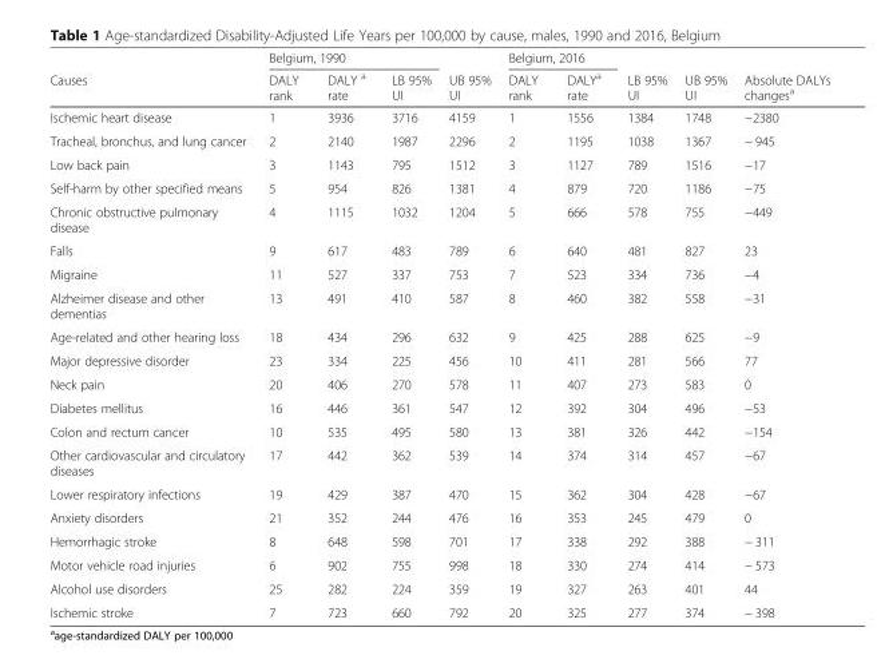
<table><thead><tr><td rowspan="2">Causes</td><td colspan="3">Belgium, 1990</td><td rowspan="2">UB 95% UI</td><td colspan="2">Belgium, 2016</td><td rowspan="2">LB 95% UI</td><td rowspan="2">UB 95% UI</td><td rowspan="2">Absolute DALYs changes<sup>a</sup></td></tr><tr><td>DALY rank</td><td>DALY <sup>a</sup> rate</td><td>LB 95% UI</td><td>DALY rank</td><td>DALY<sup>a</sup> rate</td></tr></thead><tbody><tr><td>Ischemic heart disease</td><td>1</td><td>3936</td><td>3716</td><td>4159</td><td>1</td><td>1556</td><td>1384</td><td>1748</td><td>−2380</td></tr><tr><td>Tracheal, bronchus, and lung cancer</td><td>2</td><td>2140</td><td>1987</td><td>2296</td><td>2</td><td>1195</td><td>1038</td><td>1367</td><td>− 945</td></tr><tr><td>Low back pain</td><td>3</td><td>1143</td><td>795</td><td>1512</td><td>3</td><td>1127</td><td>789</td><td>1516</td><td>−17</td></tr><tr><td>Self-harm by other specified means</td><td>5</td><td>954</td><td>826</td><td>1381</td><td>4</td><td>879</td><td>720</td><td>1186</td><td>−75</td></tr><tr><td>Chronic obstructive pulmonary disease</td><td>4</td><td>1115</td><td>1032</td><td>1204</td><td>5</td><td>666</td><td>578</td><td>755</td><td>−449</td></tr><tr><td>Falls</td><td>9</td><td>617</td><td>483</td><td>789</td><td>6</td><td>640</td><td>481</td><td>827</td><td>23</td></tr><tr><td>Migraine</td><td>11</td><td>527</td><td>337</td><td>753</td><td>7</td><td>523</td><td>334</td><td>736</td><td>−4</td></tr><tr><td>Alzheimer disease and other dementias</td><td>13</td><td>491</td><td>410</td><td>587</td><td>8</td><td>460</td><td>382</td><td>558</td><td>−31</td></tr><tr><td>Age-related and other hearing loss</td><td>18</td><td>434</td><td>296</td><td>632</td><td>9</td><td>425</td><td>288</td><td>625</td><td>−9</td></tr><tr><td>Major depressive disorder</td><td>23</td><td>334</td><td>225</td><td>456</td><td>10</td><td>411</td><td>281</td><td>566</td><td>77</td></tr><tr><td>Neck pain</td><td>20</td><td>406</td><td>270</td><td>578</td><td>11</td><td>407</td><td>273</td><td>583</td><td>0</td></tr><tr><td>Diabetes mellitus</td><td>16</td><td>446</td><td>361</td><td>547</td><td>12</td><td>392</td><td>304</td><td>496</td><td>−53</td></tr><tr><td>Colon and rectum cancer</td><td>10</td><td>535</td><td>495</td><td>580</td><td>13</td><td>381</td><td>326</td><td>442</td><td>−154</td></tr><tr><td>Other cardiovascular and circulatory diseases</td><td>17</td><td>442</td><td>362</td><td>539</td><td>14</td><td>374</td><td>314</td><td>457</td><td>−67</td></tr><tr><td>Lower respiratory infections</td><td>19</td><td>429</td><td>387</td><td>470</td><td>15</td><td>362</td><td>304</td><td>428</td><td>−67</td></tr><tr><td>Anxiety disorders</td><td>21</td><td>352</td><td>244</td><td>476</td><td>16</td><td>353</td><td>245</td><td>479</td><td>0</td></tr><tr><td>Hemorrhagic stroke</td><td>8</td><td>648</td><td>598</td><td>701</td><td>17</td><td>338</td><td>292</td><td>388</td><td>− 311</td></tr><tr><td>Motor vehicle road injuries</td><td>6</td><td>902</td><td>755</td><td>998</td><td>18</td><td>330</td><td>274</td><td>414</td><td>− 573</td></tr><tr><td>Alcohol use disorders</td><td>25</td><td>282</td><td>224</td><td>359</td><td>19</td><td>327</td><td>263</td><td>401</td><td>44</td></tr><tr><td>Ischemic stroke</td><td>7</td><td>723</td><td>660</td><td>792</td><td>20</td><td>325</td><td>277</td><td>374</td><td>− 398</td></tr></tbody></table>